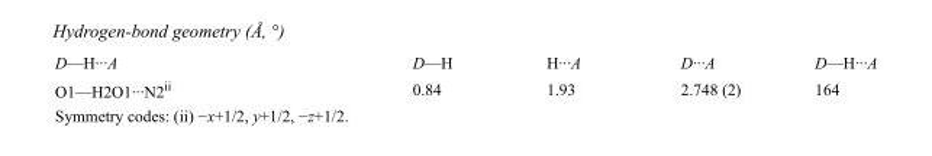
<table><tbody><tr><td>D—H···A</td><td>D—H</td><td>H···A</td><td>D···A</td><td>D—H···A</td></tr><tr><td>O1—H2O1···N2<sup>ii</sup></td><td>0.84</td><td>1.93</td><td>2.748 (2)</td><td>164</td></tr></tbody></table>